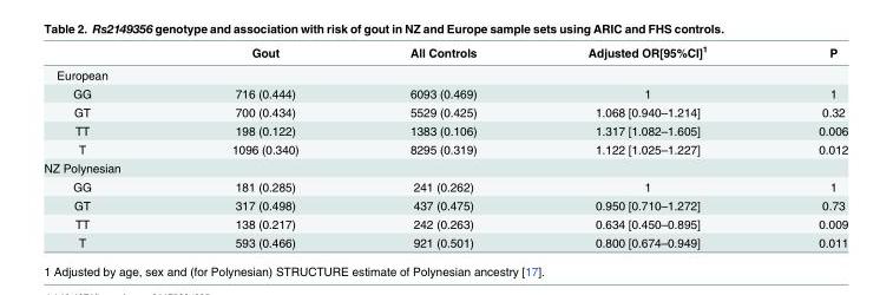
<table><thead><tr><td></td><td>Gout</td><td>All Controls</td><td>Adjusted OR[95%CI]<sup>1</sup></td><td>P</td></tr></thead><tbody><tr><td colspan="5">European</td></tr><tr><td>GG</td><td>716 (0.444)</td><td>6093 (0.469)</td><td>1</td><td>1</td></tr><tr><td>GT</td><td>700 (0.434)</td><td>5529 (0.425)</td><td>1.068 [0.940–1.214]</td><td>0.32</td></tr><tr><td>TT</td><td>198 (0.122)</td><td>1383 (0.106)</td><td>1.317 [1.082–1.605]</td><td>0.006</td></tr><tr><td>T</td><td>1096 (0.340)</td><td>8295 (0.319)</td><td>1.122 [1.025–1.227]</td><td>0.012</td></tr><tr><td colspan="5">NZ Polynesian</td></tr><tr><td>GG</td><td>181 (0.285)</td><td>241 (0.262)</td><td>1</td><td>1</td></tr><tr><td>GT</td><td>317 (0.498)</td><td>437 (0.475)</td><td>0.950 [0.710–1.272]</td><td>0.73</td></tr><tr><td>TT</td><td>138 (0.217)</td><td>242 (0.263)</td><td>0.634 [0.450–0.895]</td><td>0.009</td></tr><tr><td>T</td><td>593 (0.466)</td><td>921 (0.501)</td><td>0.800 [0.674–0.949]</td><td>0.011</td></tr></tbody></table>